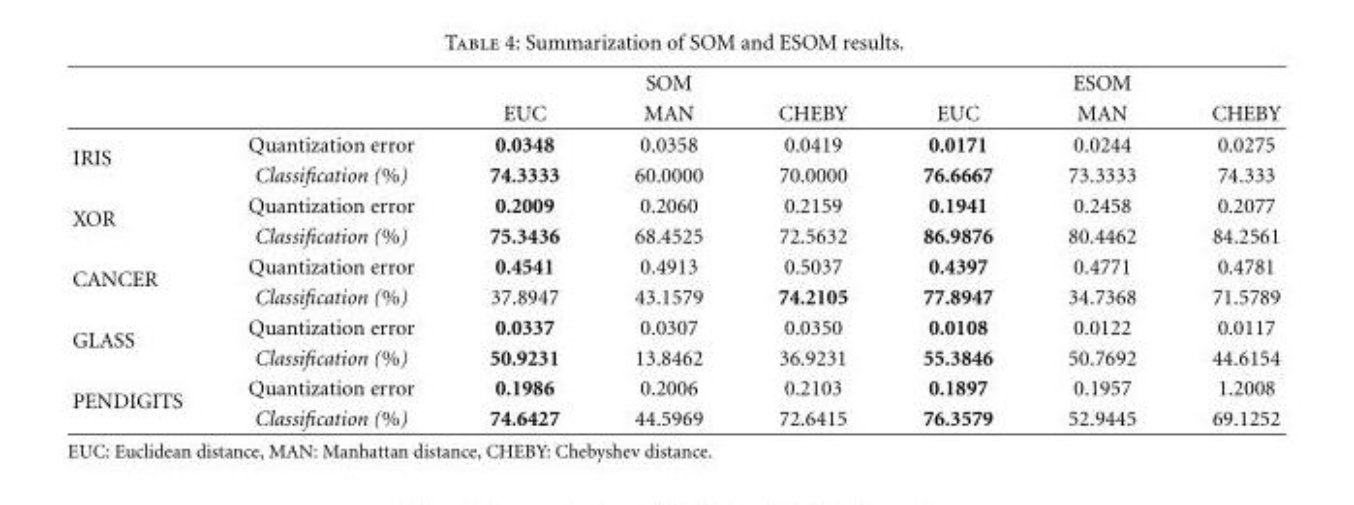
<table><thead><tr><td rowspan="2"></td><td rowspan="2"></td><td colspan="3">SOM</td><td colspan="3">ESOM</td></tr><tr><td>EUC</td><td>MAN</td><td>CHEBY</td><td>EUC</td><td>MAN</td><td>CHEBY</td></tr></thead><tbody><tr><td rowspan="2">IRIS</td><td>Quantization error</td><td>0.0348</td><td>0.0358</td><td>0.0419</td><td>0.0171</td><td>0.0244</td><td>0.0275</td></tr><tr><td>Classification (%)</td><td>74.3333</td><td>60.0000</td><td>70.0000</td><td>76.6667</td><td>73.3333</td><td>74.333</td></tr><tr><td rowspan="2">XOR</td><td>Quantization error</td><td>0.2009</td><td>0.2060</td><td>0.2159</td><td>0.1941</td><td>0.2458</td><td>0.2077</td></tr><tr><td>Classification (%)</td><td>75.3436</td><td>68.4525</td><td>72.5632</td><td>86.9876</td><td>80.4462</td><td>84.2561</td></tr><tr><td rowspan="2">CANCER</td><td>Quantization error</td><td>0.4541</td><td>0.4913</td><td>0.5037</td><td>0.4397</td><td>0.4771</td><td>0.4781</td></tr><tr><td>Classification (%)</td><td>37.8947</td><td>43.1579</td><td>74.2105</td><td>77.8947</td><td>34.7368</td><td>71.5789</td></tr><tr><td rowspan="2">GLASS</td><td>Quantization error</td><td>0.0337</td><td>0.0307</td><td>0.0350</td><td>0.0108</td><td>0.0122</td><td>0.0117</td></tr><tr><td>Classification (%)</td><td>50.9231</td><td>13.8462</td><td>36.9231</td><td>55.3846</td><td>50.7692</td><td>44.6154</td></tr><tr><td rowspan="2">PENDIGITS</td><td>Quantization error</td><td>0.1986</td><td>0.2006</td><td>0.2103</td><td>0.1897</td><td>0.1957</td><td>1.2008</td></tr><tr><td>Classification (%)</td><td>74.6427</td><td>44.5969</td><td>72.6415</td><td>76.3579</td><td>52.9445</td><td>69.1252</td></tr></tbody></table>